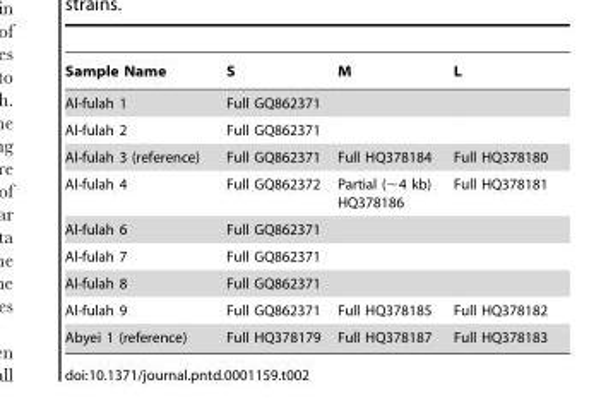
<table><thead><tr><td>Sample Name</td><td>S</td><td>M</td><td>L</td></tr></thead><tbody><tr><td>Al-fulah 1</td><td>Full GQ862371</td><td></td><td></td></tr><tr><td>Al-fulah 2</td><td>Full GQ862371</td><td></td><td></td></tr><tr><td>Al-fulah 3 (reference)</td><td>Full GQ862371</td><td>Full HQ378184</td><td>Full HQ378180</td></tr><tr><td>Al-fulah 4</td><td>Full GQ862372</td><td>Partial (∼4 kb) HQ378186</td><td>Full HQ378181</td></tr><tr><td>Al-fulah 6</td><td>Full GQ862371</td><td></td><td></td></tr><tr><td>Al-fulah 7</td><td>Full GQ862371</td><td></td><td></td></tr><tr><td>Al-fulah 8</td><td>Full GQ862371</td><td></td><td></td></tr><tr><td>Al-fulah 9</td><td>Full GQ862371</td><td>Full HQ378185</td><td>Full HQ378182</td></tr><tr><td>Abyei 1 (reference)</td><td>Full HQ378179</td><td>Full HQ378187</td><td>Full HQ378183</td></tr></tbody></table>